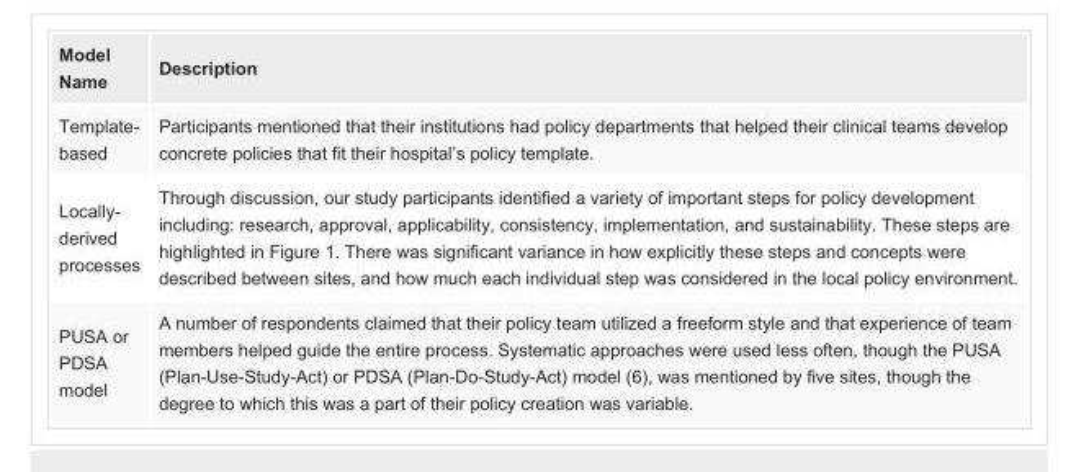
<table><tbody><tr><td>Name</td><td>Description</td></tr><tr><td>Template- based</td><td>Participants mentioned that their institutions had policy departments that helped their clinical teams develop concrete policies that fit their hospital’s policy template.</td></tr><tr><td>Locally- derived processes</td><td>Through discussion, our study participants identified a variety of important steps for policy development including: research, approval, applicability, consistency, implementation, and sustainability. These steps are highlighted in Figure 1. There was significant variance in how explicitly these steps and concepts were described between sites, and how much each individual step was considered in the local policy environment.</td></tr><tr><td>PUSA or PDSA model</td><td>A number of respondents claimed that their policy team utilized a freeform style and that experience of team members helped guide the entire process. Systematic approaches were used less often, though the PUSA (Plan-Use-Study-Act) or PDSA (Plan-Do-Study-Act) model (6), was mentioned by five sites, though the degree to which this was a part of their policy creation was variable.</td></tr></tbody></table>